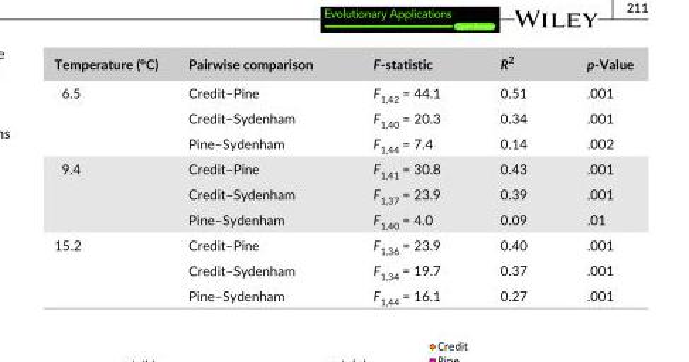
<table><thead><tr><td>Temperature (°C)</td><td>Pairwise comparison</td><td>F- statistic</td><td>R<sup>2</sup></td><td>p- Value</td></tr></thead><tbody><tr><td rowspan="3">6.5</td><td>Credit–Pine</td><td>F<sub>1,42</sub> = 44.1</td><td>0.51</td><td>.001</td></tr><tr><td>Credit–Sydenham</td><td>F<sub>1,40</sub> = 20.3</td><td>0.34</td><td>.001</td></tr><tr><td>Pine–Sydenham</td><td>F<sub>1,44</sub> = 7.4</td><td>0.14</td><td>.002</td></tr><tr><td rowspan="3">9.4</td><td>Credit–Pine</td><td>F<sub>1,41</sub> = 30.8</td><td>0.43</td><td>.001</td></tr><tr><td>Credit–Sydenham</td><td>F<sub>1,37</sub> = 23.9</td><td>0.39</td><td>.001</td></tr><tr><td>Pine–Sydenham</td><td>F<sub>1,40</sub> = 4.0</td><td>0.09</td><td>.01</td></tr><tr><td rowspan="3">15.2</td><td>Credit–Pine</td><td>F<sub>1,36</sub> = 23.9</td><td>0.40</td><td>.001</td></tr><tr><td>Credit–Sydenham</td><td>F<sub>1,34</sub> = 19.7</td><td>0.37</td><td>.001</td></tr><tr><td>Pine–Sydenham</td><td>F<sub>1,44</sub> = 16.1</td><td>0.27</td><td>.001</td></tr></tbody></table>